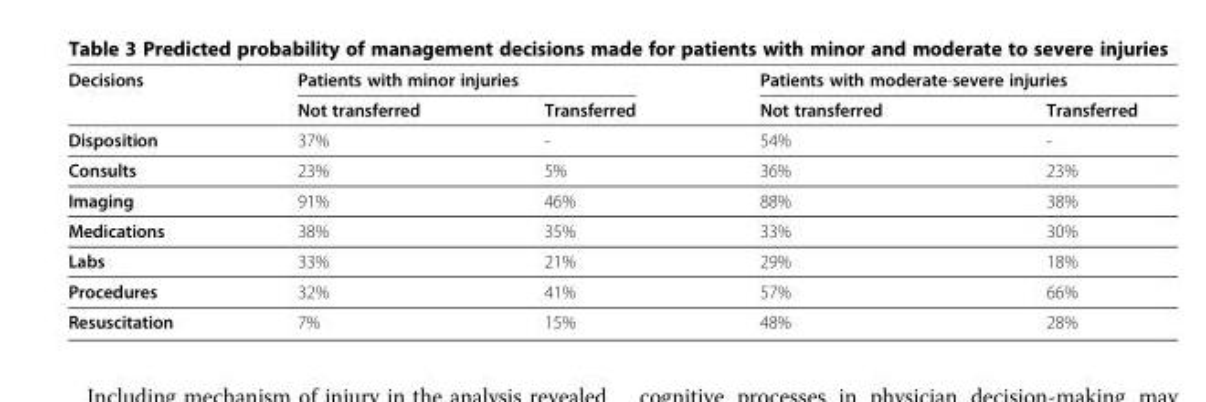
<table><thead><tr><td rowspan="2">Decisions</td><td colspan="2">Patients with minor injuries</td><td colspan="2">Patients with moderate-severe injuries</td></tr><tr><td>Not transferred</td><td>Transferred</td><td>Not transferred</td><td>Transferred</td></tr></thead><tbody><tr><td>Disposition</td><td>37%</td><td>-</td><td>54%</td><td>-</td></tr><tr><td>Consults</td><td>23%</td><td>5%</td><td>36%</td><td>23%</td></tr><tr><td>Imaging</td><td>91%</td><td>46%</td><td>88%</td><td>38%</td></tr><tr><td>Medications</td><td>38%</td><td>35%</td><td>33%</td><td>30%</td></tr><tr><td>Labs</td><td>33%</td><td>21%</td><td>29%</td><td>18%</td></tr><tr><td>Procedures</td><td>32%</td><td>41%</td><td>57%</td><td>66%</td></tr><tr><td>Resuscitation</td><td>7%</td><td>15%</td><td>48%</td><td>28%</td></tr></tbody></table>